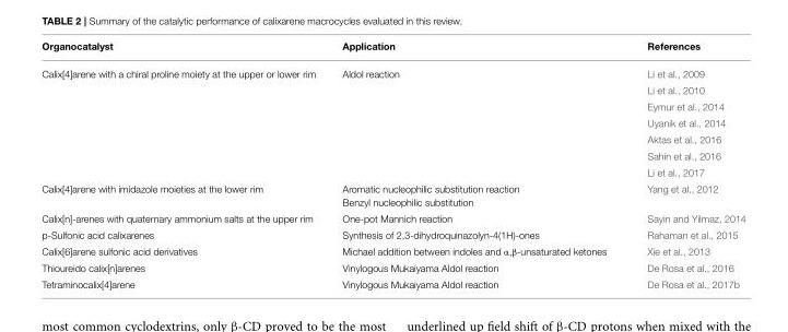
<table><thead><tr><td>Organocatalyst</td><td>Application</td><td>References</td></tr></thead><tbody><tr><td rowspan="7">Calix[4]arene with a chiral proline moiety at the upper or lower rim</td><td>Aldol reaction</td><td>Li et al., 2009</td></tr><tr><td></td><td>Li et al., 2010</td></tr><tr><td></td><td>Eymur et al., 2014</td></tr><tr><td></td><td>Uyanik et al., 2014</td></tr><tr><td></td><td>Aktas et al., 2016</td></tr><tr><td></td><td>Sahin et al., 2016</td></tr><tr><td></td><td>Li et al., 2017</td></tr><tr><td>Calix[4]arene with imidazole moieties at the lower rim</td><td>Aromatic nucleophilic substitution reaction Benzyl nucleophilic substitution</td><td>Yang et al., 2012</td></tr><tr><td>Calix[n]-arenes with quaternary ammonium salts at the upper rim</td><td>One-pot Mannich reaction</td><td>Sayin and Yilmaz, 2014</td></tr><tr><td>p-Sulfonic acid calixarenes</td><td>Synthesis of 2,3-dihydroquinazolyn-4(1H)-ones</td><td>Rahaman et al., 2015</td></tr><tr><td>Calix[6]arene sulfonic acid derivatives</td><td>Michael addition between indoles and α,β-unsaturated ketones</td><td>Xie et al., 2013</td></tr><tr><td>Thioureido calix[n]arenes</td><td>Vinylogous Mukaiyama Aldol reaction</td><td>De Rosa et al., 2016</td></tr><tr><td>Tetraminocalix[4]arene</td><td>Vinylogous Mukaiyama Aldol reaction</td><td>De Rosa et al., 2017b</td></tr></tbody></table>